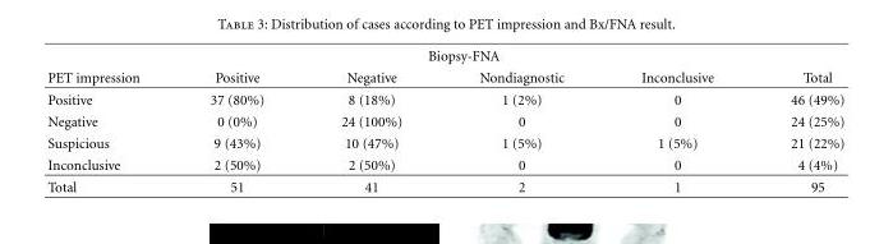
<table><thead><tr><td rowspan="2">PET impression</td><td colspan="4">Biopsy-FNA</td><td rowspan="2">Total</td></tr><tr><td>Positive</td><td>Negative</td><td>Nondiagnostic</td><td>Inconclusive</td></tr></thead><tbody><tr><td>Positive</td><td>37 (80%)</td><td>8 (18%)</td><td>1 (2%)</td><td>0</td><td>46 (49%)</td></tr><tr><td>Negative</td><td>0 (0%)</td><td>24 (100%)</td><td>0</td><td>0</td><td>24 (25%)</td></tr><tr><td>Suspicious</td><td>9 (43%)</td><td>10 (47%)</td><td>1 (5%)</td><td>1 (5%)</td><td>21 (22%)</td></tr><tr><td>Inconclusive</td><td>2 (50%)</td><td>2 (50%)</td><td>0</td><td>0</td><td>4 (4%)</td></tr><tr><td>Total</td><td>51</td><td>41</td><td>2</td><td>1</td><td>95</td></tr></tbody></table>